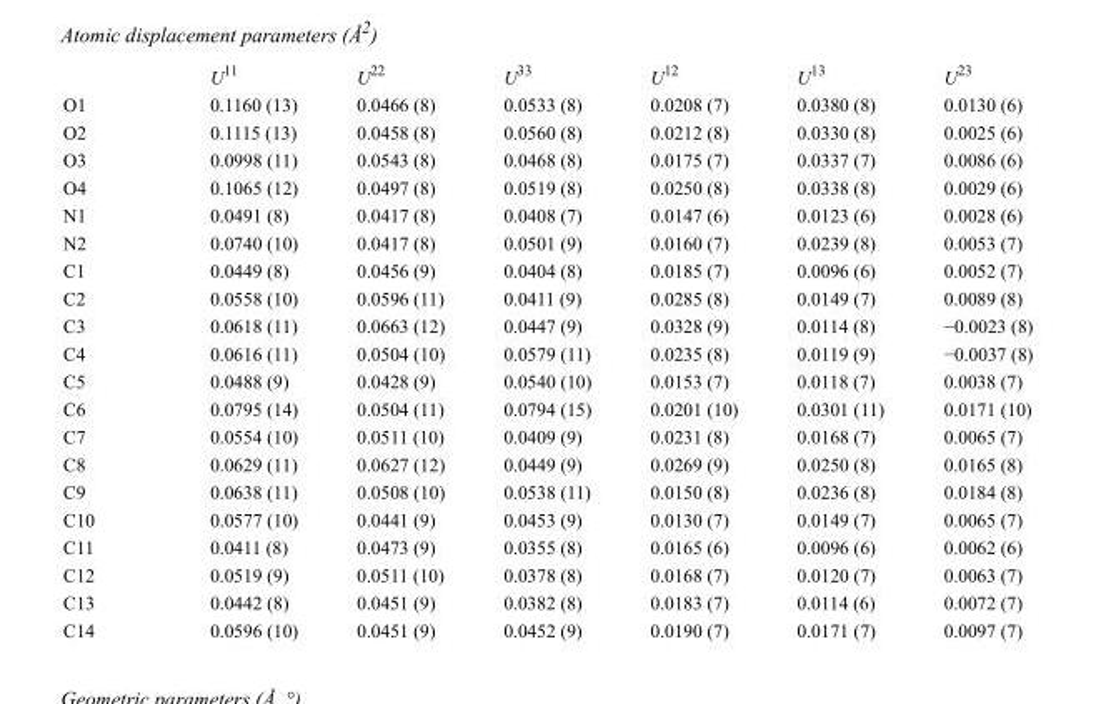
<table><thead><tr><td></td><td>U<sup>11</sup></td><td>U<sup>22</sup></td><td>U<sup>33</sup></td><td>U<sup>12</sup></td><td>U<sup>13</sup></td><td>U<sup>23</sup></td></tr></thead><tbody><tr><td>O1</td><td>0.1160 (13)</td><td>0.0466 (8)</td><td>0.0533 (8)</td><td>0.0208 (7)</td><td>0.0380 (8)</td><td>0.0130 (6)</td></tr><tr><td>O2</td><td>0.1115 (13)</td><td>0.0458 (8)</td><td>0.0560 (8)</td><td>0.0212 (8)</td><td>0.0330 (8)</td><td>0.0025 (6)</td></tr><tr><td>O3</td><td>0.0998 (11)</td><td>0.0543 (8)</td><td>0.0468 (8)</td><td>0.0175 (7)</td><td>0.0337 (7)</td><td>0.0086 (6)</td></tr><tr><td>O4</td><td>0.1065 (12)</td><td>0.0497 (8)</td><td>0.0519 (8)</td><td>0.0250 (8)</td><td>0.0338 (8)</td><td>0.0029 (6)</td></tr><tr><td>N1</td><td>0.0491 (8)</td><td>0.0417 (8)</td><td>0.0408 (7)</td><td>0.0147 (6)</td><td>0.0123 (6)</td><td>0.0028 (6)</td></tr><tr><td>N2</td><td>0.0740 (10)</td><td>0.0417 (8)</td><td>0.0501 (9)</td><td>0.0160 (7)</td><td>0.0239 (8)</td><td>0.0053 (7)</td></tr><tr><td>C1</td><td>0.0449 (8)</td><td>0.0456 (9)</td><td>0.0404 (8)</td><td>0.0185 (7)</td><td>0.0096 (6)</td><td>0.0052 (7)</td></tr><tr><td>C2</td><td>0.0558 (10)</td><td>0.0596 (11)</td><td>0.0411 (9)</td><td>0.0285 (8)</td><td>0.0149 (7)</td><td>0.0089 (8)</td></tr><tr><td>C3</td><td>0.0618 (11)</td><td>0.0663 (12)</td><td>0.0447 (9)</td><td>0.0328 (9)</td><td>0.0114 (8)</td><td>−0.0023 (8)</td></tr><tr><td>C4</td><td>0.0616 (11)</td><td>0.0504 (10)</td><td>0.0579 (11)</td><td>0.0235 (8)</td><td>0.0119 (9)</td><td>−0.0037 (8)</td></tr><tr><td>C5</td><td>0.0488 (9)</td><td>0.0428 (9)</td><td>0.0540 (10)</td><td>0.0153 (7)</td><td>0.0118 (7)</td><td>0.0038 (7)</td></tr><tr><td>C6</td><td>0.0795 (14)</td><td>0.0504 (11)</td><td>0.0794 (15)</td><td>0.0201 (10)</td><td>0.0301 (11)</td><td>0.0171 (10)</td></tr><tr><td>C7</td><td>0.0554 (10)</td><td>0.0511 (10)</td><td>0.0409 (9)</td><td>0.0231 (8)</td><td>0.0168 (7)</td><td>0.0065 (7)</td></tr><tr><td>C8</td><td>0.0629 (11)</td><td>0.0627 (12)</td><td>0.0449 (9)</td><td>0.0269 (9)</td><td>0.0250 (8)</td><td>0.0165 (8)</td></tr><tr><td>C9</td><td>0.0638 (11)</td><td>0.0508 (10)</td><td>0.0538 (11)</td><td>0.0150 (8)</td><td>0.0236 (8)</td><td>0.0184 (8)</td></tr><tr><td>C10</td><td>0.0577 (10)</td><td>0.0441 (9)</td><td>0.0453 (9)</td><td>0.0130 (7)</td><td>0.0149 (7)</td><td>0.0065 (7)</td></tr><tr><td>C11</td><td>0.0411 (8)</td><td>0.0473 (9)</td><td>0.0355 (8)</td><td>0.0165 (6)</td><td>0.0096 (6)</td><td>0.0062 (6)</td></tr><tr><td>C12</td><td>0.0519 (9)</td><td>0.0511 (10)</td><td>0.0378 (8)</td><td>0.0168 (7)</td><td>0.0120 (7)</td><td>0.0063 (7)</td></tr><tr><td>C13</td><td>0.0442 (8)</td><td>0.0451 (9)</td><td>0.0382 (8)</td><td>0.0183 (7)</td><td>0.0114 (6)</td><td>0.0072 (7)</td></tr><tr><td>C14</td><td>0.0596 (10)</td><td>0.0451 (9)</td><td>0.0452 (9)</td><td>0.0190 (7)</td><td>0.0171 (7)</td><td>0.0097 (7)</td></tr></tbody></table>